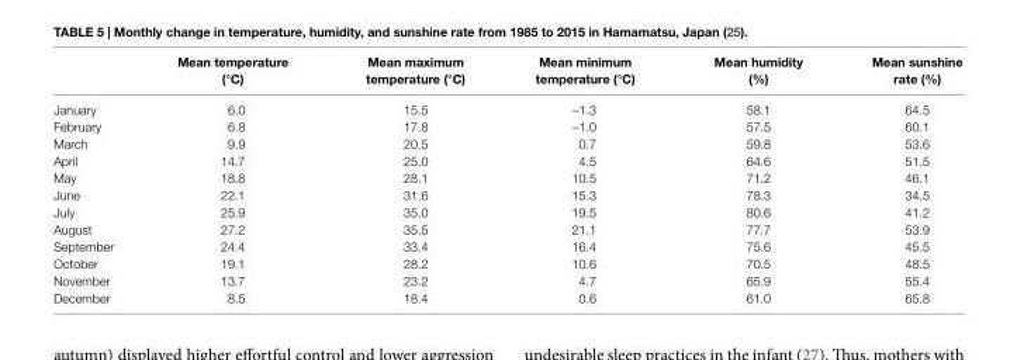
<table><thead><tr><td></td><td>Mean temperature (°c)</td><td>Mean maximum temperature (°c)</td><td>Mean minimum temperature (°c)</td><td>Mean humidity (%)</td><td>Mean sunshine rate (%)</td></tr></thead><tbody><tr><td>January</td><td>6.0</td><td>15.5</td><td>–1.3</td><td>58.1</td><td>64.5</td></tr><tr><td>February</td><td>6.8</td><td>17.8</td><td>–1.0</td><td>57.5</td><td>60.1</td></tr><tr><td>March</td><td>9.9</td><td>20.5</td><td>0.7</td><td>59.8</td><td>53.6</td></tr><tr><td>April</td><td>14.7</td><td>25.0</td><td>4.5</td><td>64.6</td><td>51.5</td></tr><tr><td>May</td><td>18.8</td><td>28.1</td><td>10.5</td><td>71.2</td><td>46.1</td></tr><tr><td>June</td><td>22.1</td><td>31.6</td><td>15.3</td><td>78.3</td><td>34.5</td></tr><tr><td>July</td><td>25.9</td><td>35.0</td><td>19.5</td><td>80.6</td><td>41.2</td></tr><tr><td>August</td><td>27.2</td><td>35.5</td><td>21.1</td><td>77.7</td><td>53.9</td></tr><tr><td>September</td><td>24.4</td><td>33.4</td><td>16.4</td><td>75.6</td><td>45.5</td></tr><tr><td>October</td><td>19.1</td><td>28.2</td><td>10.6</td><td>70.5</td><td>48.5</td></tr><tr><td>November</td><td>13.7</td><td>23.2</td><td>4.7</td><td>65.9</td><td>55.4</td></tr><tr><td>December</td><td>8.5</td><td>18.4</td><td>0.6</td><td>61.0</td><td>65.8</td></tr></tbody></table>